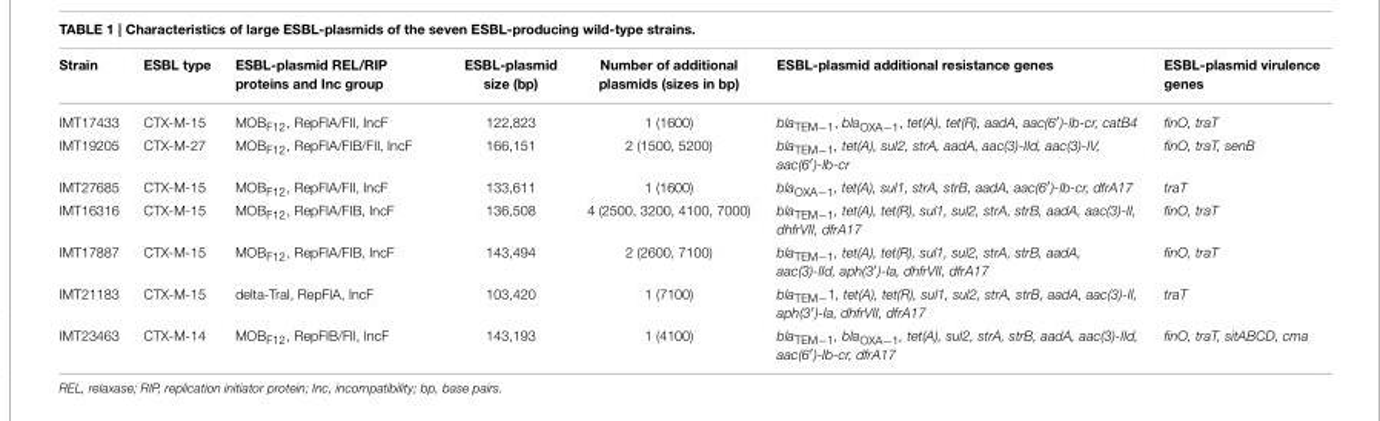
<table><thead><tr><td>Strain</td><td>ESBL type</td><td>ESBL-plasmid REL/RIP proteins and Inc group</td><td>ESBL-plasmid size (bp)</td><td>Number of additional plasmids (sizes in bp)</td><td>ESBL-plasmid additional resistance genes</td><td>ESBL-plasmid virulence genes</td></tr></thead><tbody><tr><td>IMT17433</td><td>CTX-M-15</td><td>MOB<sub>F12</sub>, RepFIA/FII, IncF</td><td>122,823</td><td>1 (1600)</td><td>bla<sub>TEM−1</sub>, bla<sub>OXA−1</sub>, tet(A), tet(R), aadA, aac(6′)-Ib-cr, catB4</td><td>finO, traT</td></tr><tr><td>IMT19205</td><td>CTX-M-27</td><td>MOB<sub>F12</sub>, RepFIA/FIB/FII, IncF</td><td>166,151</td><td>2 (1500, 5200)</td><td>bla<sub>TEM−1</sub>, tet(A), sul2, strA, aadA, aac(3)-IId, aac(3)-IV, aac(6′)-Ib-cr</td><td>finO, traT, senB</td></tr><tr><td>IMT27685</td><td>CTX-M-15</td><td>MOB<sub>F12</sub>, RepFIA/FII, IncF</td><td>133,611</td><td>1 (1600)</td><td>bla<sub>OXA−1</sub>, tet(A), sul1, strA, strB, aadA, aac(6′)-Ib-cr, dfrA17</td><td>traT</td></tr><tr><td>IMT16316</td><td>CTX-M-15</td><td>MOB<sub>F12</sub>, RepFIA/FIB, IncF</td><td>136,508</td><td>4 (2500, 3200, 4100, 7000)</td><td>bla<sub>TEM−1</sub>, tet(A), tet(R), sul1, sul2, strA, strB, aadA, aac(3)-II, dhfrVII, dfrA17</td><td>finO, traT</td></tr><tr><td>IMT17887</td><td>CTX-M-15</td><td>MOB<sub>F12</sub>, RepFIA/FIB, IncF</td><td>143,494</td><td>2 (2600, 7100)</td><td>bla<sub>TEM−1</sub>, tet(A), tet(R), sul1, sul2, strA, strB, aadA, aac(3)-IId, aph(3′)-Ia, dhfrVII, dfrA17</td><td>finO, traT</td></tr><tr><td>IMT21183</td><td>CTX-M-15</td><td>delta-TraI, RepFIA, IncF</td><td>103,420</td><td>1 (7100)</td><td>bla<sub>TEM−</sub>1, tet(A), tet(R), sul1, sul2, strA, strB, aadA, aac(3)-II, aph(3′)-Ia, dhfrVII, dfrA17</td><td>traT</td></tr><tr><td>IMT23463</td><td>CTX-M-14</td><td>MOB<sub>F12</sub>, RepFIB/FII, IncF</td><td>143,193</td><td>1 (4100)</td><td>bla<sub>TEM−1</sub>, bla<sub>OXA−1</sub>, tet(A), sul2, strA, strB, aadA, aac(3)-IId, aac(6′)-Ib-cr, dfrA17</td><td>finO, traT, sitABCD, cma</td></tr></tbody></table>